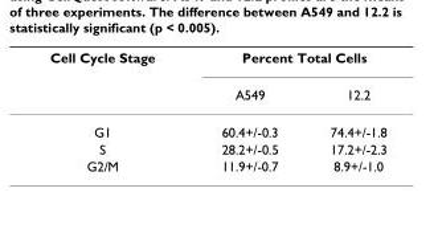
<table><thead><tr><td rowspan="2">Cell Cycle Stage</td><td colspan="2">Percent Total Cells</td></tr><tr><td>A549</td><td>12.2</td></tr></thead><tbody><tr><td>G1</td><td>60.4+/-0.3</td><td>74.4+/-1.8</td></tr><tr><td>S</td><td>28.2+/-0.5</td><td>17.2+/-2.3</td></tr><tr><td>G2/M</td><td>11.9+/-0.7</td><td>8.9+/-1.0</td></tr></tbody></table>